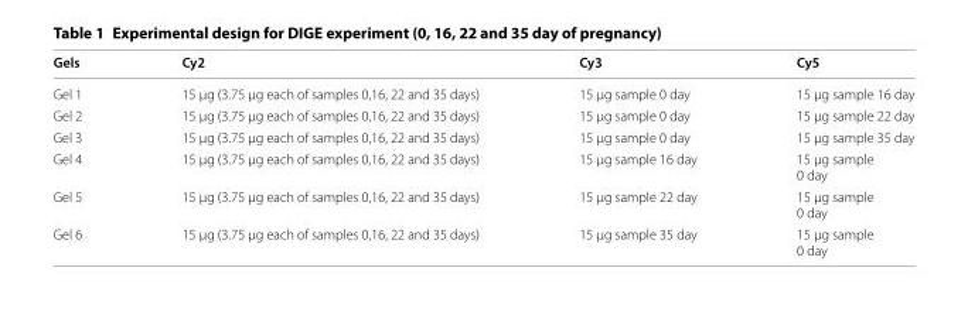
<table><thead><tr><td>Gels</td><td>Cy2</td><td>Cy3</td><td>Cy5</td></tr></thead><tbody><tr><td>Gel 1</td><td>15 μg (3.75 μg each of samples 0,16, 22 and 35 days)</td><td>15 μg sample 0 day</td><td>15 μg sample 16 day</td></tr><tr><td>Gel 2</td><td>15 μg (3.75 μg each of samples 0,16, 22 and 35 days)</td><td>15 μg sample 0 day</td><td>15 μg sample 22 day</td></tr><tr><td>Gel 3</td><td>15 μg (3.75 μg each of samples 0,16, 22 and 35 days)</td><td>15 μg sample 0 day</td><td>15 μg sample 35 day</td></tr><tr><td>Gel 4</td><td>15 μg (3.75 μg each of samples 0,16, 22 and 35 days)</td><td>15 μg sample 16 day</td><td>15 μg sample 0 day</td></tr><tr><td>Gel 5</td><td>15 μg (3.75 μg each of samples 0,16, 22 and 35 days)</td><td>15 μg sample 22 day</td><td>15 μg sample 0 day</td></tr><tr><td>Gel 6</td><td>15 μg (3.75 μg each of samples 0,16, 22 and 35 days)</td><td>15 μg sample 35 day</td><td>15 μg sample 0 day</td></tr></tbody></table>